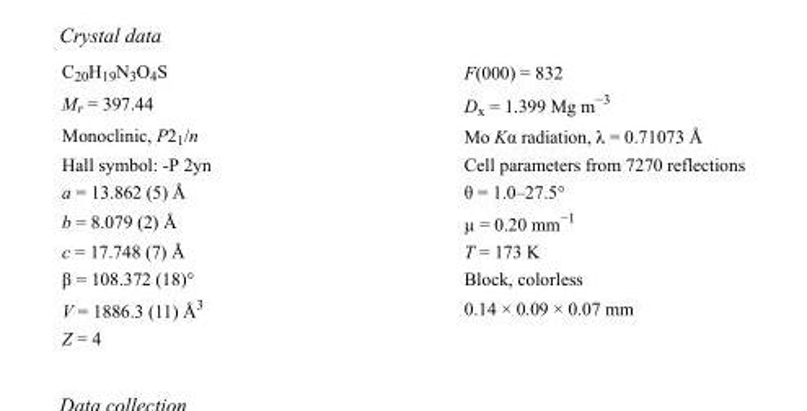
<table><tbody><tr><td>C<sub>20</sub>H<sub>19</sub>N<sub>3</sub>O<sub>4</sub>S</td><td>F(000) = 832</td></tr><tr><td>M<sub>r</sub> = 397.44</td><td>D<sub>x</sub> = 1.399 Mg m<sup>−3</sup></td></tr><tr><td>Monoclinic, P2<sub>1</sub>/n</td><td>Mo Kα radiation, λ = 0.71073 Å</td></tr><tr><td>Hall symbol: -P 2yn</td><td>Cell parameters from 7270 reflections</td></tr><tr><td>a = 13.862 (5) Å</td><td>θ = 1.0–27.5°</td></tr><tr><td>b = 8.079 (2) Å</td><td>µ = 0.20 mm<sup>−1</sup></td></tr><tr><td>c = 17.748 (7) Å</td><td>T = 173 K</td></tr><tr><td>β = 108.372 (18)°</td><td>Block, colorless</td></tr><tr><td>V = 1886.3 (11) Å<sup>3</sup></td><td>0.14 × 0.09 × 0.07 mm</td></tr><tr><td>Z = 4</td><td></td></tr></tbody></table>